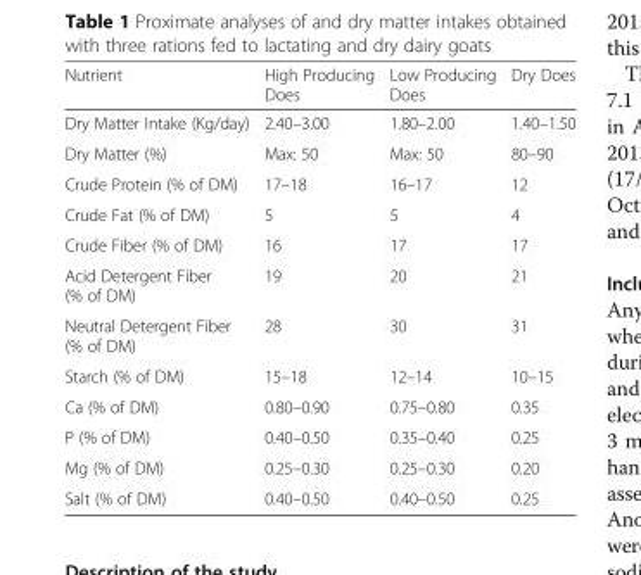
<table><thead><tr><td>Nutrient</td><td>High Producing Does</td><td>Low Producing Does</td><td>Dry Does</td></tr></thead><tbody><tr><td>Dry Matter Intake (Kg/day)</td><td>2.40–3.00</td><td>1.80–2.00</td><td>1.40–1.50</td></tr><tr><td>Dry Matter (%)</td><td>Max: 50</td><td>Max: 50</td><td>80–90</td></tr><tr><td>Crude Protein (% of DM)</td><td>17–18</td><td>16–17</td><td>12</td></tr><tr><td>Crude Fat (% of DM)</td><td>5</td><td>5</td><td>4</td></tr><tr><td>Crude Fiber (% of DM)</td><td>16</td><td>17</td><td>17</td></tr><tr><td>Acid Detergent Fiber (% of DM)</td><td>19</td><td>20</td><td>21</td></tr><tr><td>Neutral Detergent Fiber (% of DM)</td><td>28</td><td>30</td><td>31</td></tr><tr><td>Starch (% of DM)</td><td>15–18</td><td>12–14</td><td>10–15</td></tr><tr><td>Ca (% of DM)</td><td>0.80–0.90</td><td>0.75–0.80</td><td>0.35</td></tr><tr><td>P (% of DM)</td><td>0.40–0.50</td><td>0.35–0.40</td><td>0.25</td></tr><tr><td>Mg (% of DM)</td><td>0.25–0.30</td><td>0.25–0.30</td><td>0.20</td></tr><tr><td>Salt (% of DM)</td><td>0.40–0.50</td><td>0.40–0.50</td><td>0.25</td></tr></tbody></table>